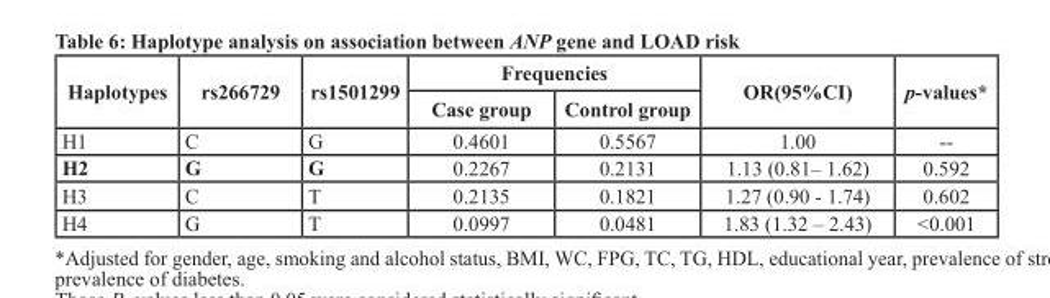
<table><thead><tr><td rowspan="2">Haplotypes</td><td rowspan="2">rs266729</td><td rowspan="2">rs1501299</td><td colspan="2">Frequencies</td><td rowspan="2">OR(95%CI)</td><td rowspan="2">p-values*</td></tr><tr><td>Case group</td><td>Control group</td></tr></thead><tbody><tr><td>H1</td><td>C</td><td>G</td><td>0.4601</td><td>0.5567</td><td>1.00</td><td>--</td></tr><tr><td>H2</td><td>G</td><td>G</td><td>0.2267</td><td>0.2131</td><td>1.13 (0.81– 1.62)</td><td>0.592</td></tr><tr><td>H3</td><td>C</td><td>T</td><td>0.2135</td><td>0.1821</td><td>1.27 (0.90 - 1.74)</td><td>0.602</td></tr><tr><td>H4</td><td>G</td><td>T</td><td>0.0997</td><td>0.0481</td><td>1.83 (1.32 – 2.43)</td><td>&lt;0.001</td></tr></tbody></table>